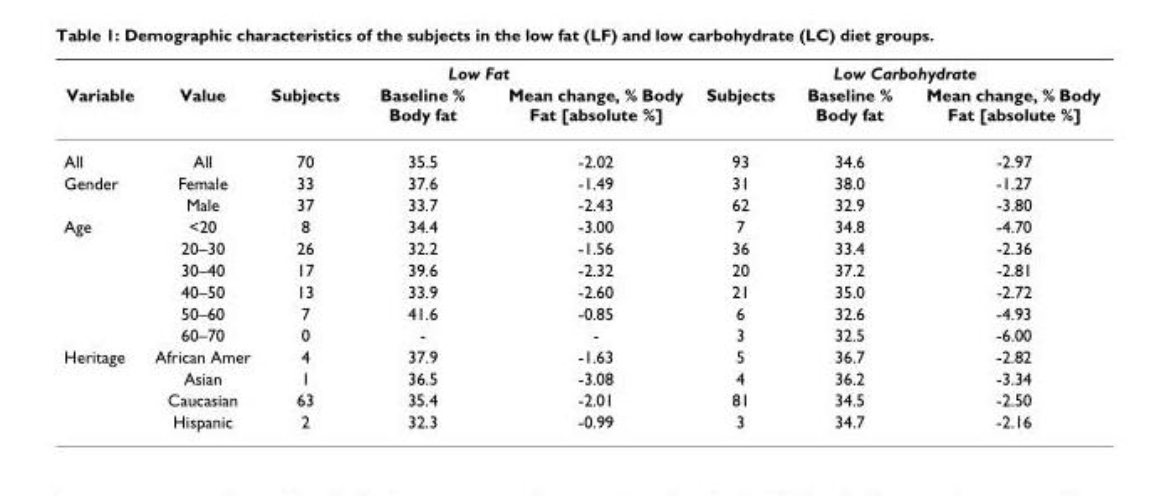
<table><thead><tr><td rowspan="2">Variable</td><td rowspan="2">Value</td><td colspan="3">Low Fat</td><td colspan="3">Low Carbohydrate</td></tr><tr><td>Subjects</td><td>Baseline % Body fat</td><td>Mean change, % Body Fat [absolute %]</td><td>Subjects</td><td>Baseline % Body fat</td><td>Mean change, % Body Fat [absolute %]</td></tr></thead><tbody><tr><td>All</td><td>All</td><td>70</td><td>35.5</td><td>-2.02</td><td>93</td><td>34.6</td><td>-2.97</td></tr><tr><td rowspan="2">Gender</td><td>Female</td><td>33</td><td>37.6</td><td>-1.49</td><td>31</td><td>38.0</td><td>-1.27</td></tr><tr><td>Male</td><td>37</td><td>33.7</td><td>-2.43</td><td>62</td><td>32.9</td><td>-3.80</td></tr><tr><td rowspan="6">Age</td><td>&lt;20</td><td>8</td><td>34.4</td><td>-3.00</td><td>7</td><td>34.8</td><td>-4.70</td></tr><tr><td>20–30</td><td>26</td><td>32.2</td><td>-1.56</td><td>36</td><td>33.4</td><td>-2.36</td></tr><tr><td>30–40</td><td>17</td><td>39.6</td><td>-2.32</td><td>20</td><td>37.2</td><td>-2.81</td></tr><tr><td>40–50</td><td>13</td><td>33.9</td><td>-2.60</td><td>21</td><td>35.0</td><td>-2.72</td></tr><tr><td>50–60</td><td>7</td><td>41.6</td><td>-0.85</td><td>6</td><td>32.6</td><td>-4.93</td></tr><tr><td>60–70</td><td>0</td><td>-</td><td>-</td><td>3</td><td>32.5</td><td>-6.00</td></tr><tr><td rowspan="4">Heritage</td><td>African Amer</td><td>4</td><td>37.9</td><td>-1.63</td><td>5</td><td>36.7</td><td>-2.82</td></tr><tr><td>Asian</td><td>1</td><td>36.5</td><td>-3.08</td><td>4</td><td>36.2</td><td>-3.34</td></tr><tr><td>Caucasian</td><td>63</td><td>35.4</td><td>-2.01</td><td>81</td><td>34.5</td><td>-2.50</td></tr><tr><td>Hispanic</td><td>2</td><td>32.3</td><td>-0.99</td><td>3</td><td>34.7</td><td>-2.16</td></tr></tbody></table>